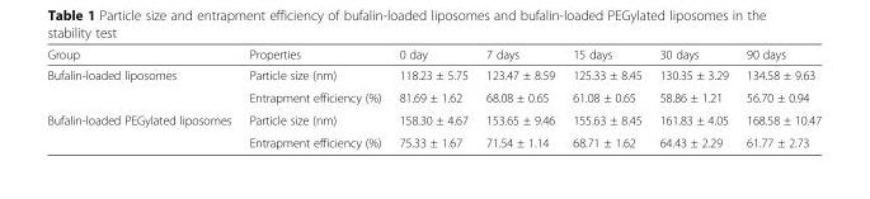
<table><thead><tr><td>Group</td><td>Properties</td><td>0 day</td><td>7 days</td><td>15 days</td><td>30 days</td><td>90 days</td></tr></thead><tbody><tr><td rowspan="2">Bufalin-loaded liposomes</td><td>Particle size (nm)</td><td>118.23 ± 5.75</td><td>123.47 ± 8.59</td><td>125.33 ± 8.45</td><td>130.35 ± 3.29</td><td>134.58 ± 9.63</td></tr><tr><td>Entrapment efficiency (%)</td><td>81.69 ± 1.62</td><td>68.08 ± 0.65</td><td>61.08 ± 0.65</td><td>58.86 ± 1.21</td><td>56.70 ± 0.94</td></tr><tr><td rowspan="2">Bufalin-loaded PEGylated liposomes</td><td>Particle size (nm)</td><td>158.30 ± 4.67</td><td>153.65 ± 9.46</td><td>155.63 ± 8.45</td><td>161.83 ± 4.05</td><td>168.58 ± 10.47</td></tr><tr><td>Entrapment efficiency (%)</td><td>75.33 ± 1.67</td><td>71.54 ± 1.14</td><td>68.71 ± 1.62</td><td>64.43 ± 2.29</td><td>61.77 ± 2.73</td></tr></tbody></table>